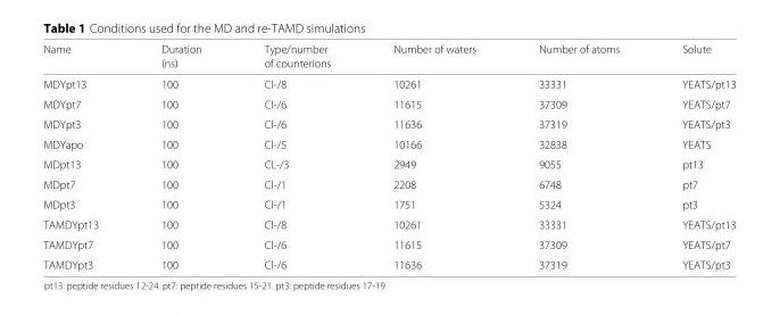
<table><thead><tr><td rowspan="2">Name</td><td rowspan="2">Duration (ns)</td><td rowspan="2">Type/number of counterions</td><td rowspan="2">Number of waters</td><td rowspan="2">Number of atoms</td><td rowspan="2">Solute</td></tr><tr></tr></thead><tbody><tr><td>MDYpt13</td><td>100</td><td>Cl-/8</td><td>10261</td><td>33331</td><td>YEATS/pt13</td></tr><tr><td>MDYpt7</td><td>100</td><td>Cl-/6</td><td>11615</td><td>37309</td><td>YEATS/pt7</td></tr><tr><td>MDYpt3</td><td>100</td><td>Cl-/6</td><td>11636</td><td>37319</td><td>YEATS/pt3</td></tr><tr><td>MDYapo</td><td>100</td><td>Cl-/5</td><td>10166</td><td>32838</td><td>YEATS</td></tr><tr><td>MDpt13</td><td>100</td><td>CL-/3</td><td>2949</td><td>9055</td><td>pt13</td></tr><tr><td>MDpt7</td><td>100</td><td>Cl-/1</td><td>2208</td><td>6748</td><td>pt7</td></tr><tr><td>MDpt3</td><td>100</td><td>Cl-/1</td><td>1751</td><td>5324</td><td>pt3</td></tr><tr><td>TAMDYpt13</td><td>100</td><td>Cl-/8</td><td>10261</td><td>33331</td><td>YEATS/pt13</td></tr><tr><td>TAMDYpt7</td><td>100</td><td>Cl-/6</td><td>11615</td><td>37309</td><td>YEATS/pt7</td></tr><tr><td>TAMDYpt3</td><td>100</td><td>Cl-/6</td><td>11636</td><td>37319</td><td>YEATS/pt3</td></tr></tbody></table>